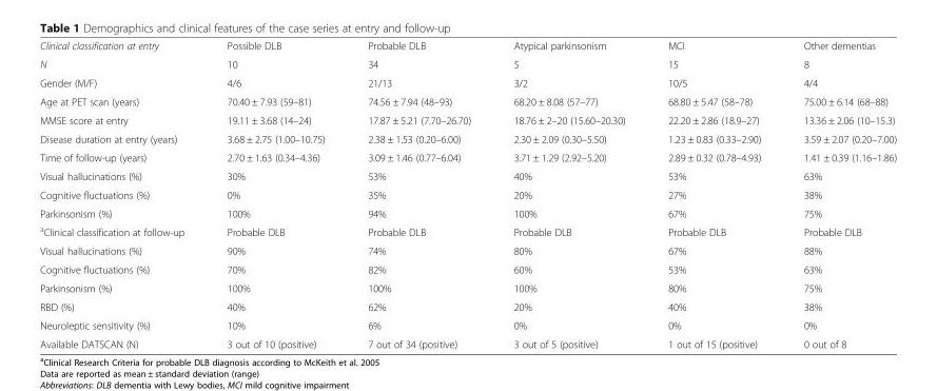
<table><tbody><tr><td>Clinical classification at entry</td><td>Possible DLB</td><td>Probable DLB</td><td>Atypical parkinsonism</td><td>MCI</td><td>Other dementias</td></tr><tr><td>N</td><td>10</td><td>34</td><td>5</td><td>15</td><td>8</td></tr><tr><td>Gender (M/F)</td><td>4/6</td><td>21/13</td><td>3/2</td><td>10/5</td><td>4/4</td></tr><tr><td>Age at PET scan (years)</td><td>70.40 ± 7.93 (59–81)</td><td>74.56 ± 7.94 (48–93)</td><td>68.20 ± 8.08 (57–77)</td><td>68.80 ± 5.47 (58–78)</td><td>75.00 ± 6.14 (68–88)</td></tr><tr><td>MMSE score at entry</td><td>19.11 ± 3.68 (14–24)</td><td>17.87 ± 5.21 (7.70–26.70)</td><td>18.76 ± 2–20 (15.60–20.30)</td><td>22.20 ± 2.86 (18.9–27)</td><td>13.36 ± 2.06 (10–15.3)</td></tr><tr><td>Disease duration at entry (years)</td><td>3.68 ± 2.75 (1.00–10.75)</td><td>2.38 ± 1.53 (0.20–6.00)</td><td>2.30 ± 2.09 (0.30–5.50)</td><td>1.23 ± 0.83 (0.33–2.90)</td><td>3.59 ± 2.07 (0.20–7.00)</td></tr><tr><td>Time of follow-up (years)</td><td>2.70 ± 1.63 (0.34–4.36)</td><td>3.09 ± 1.46 (0.77–6.04)</td><td>3.71 ± 1.29 (2.92–5.20)</td><td>2.89 ± 0.32 (0.78–4.93)</td><td>1.41 ± 0.39 (1.16–1.86)</td></tr><tr><td>Visual hallucinations (%)</td><td>30%</td><td>53%</td><td>40%</td><td>53%</td><td>63%</td></tr><tr><td>Cognitive fluctuations (%)</td><td>0%</td><td>35%</td><td>20%</td><td>27%</td><td>38%</td></tr><tr><td>Parkinsonism (%)</td><td>100%</td><td>94%</td><td>100%</td><td>67%</td><td>75%</td></tr><tr><td><sup>a</sup>Clinical classification at follow-up</td><td>Probable DLB</td><td>Probable DLB</td><td>Probable DLB</td><td>Probable DLB</td><td>Probable DLB</td></tr><tr><td>Visual hallucinations (%)</td><td>90%</td><td>74%</td><td>80%</td><td>67%</td><td>88%</td></tr><tr><td>Cognitive fluctuations (%)</td><td>70%</td><td>82%</td><td>60%</td><td>53%</td><td>63%</td></tr><tr><td>Parkinsonism (%)</td><td>100%</td><td>100%</td><td>100%</td><td>80%</td><td>75%</td></tr><tr><td>RBD (%)</td><td>40%</td><td>62%</td><td>20%</td><td>40%</td><td>38%</td></tr><tr><td>Neuroleptic sensitivity (%)</td><td>10%</td><td>6%</td><td>0%</td><td>0%</td><td>0%</td></tr><tr><td>Available DATSCAN (N)</td><td>3 out of 10 (positive)</td><td>7 out of 34 (positive)</td><td>3 out of 5 (positive)</td><td>1 out of 15 (positive)</td><td>0 out of 8</td></tr></tbody></table>